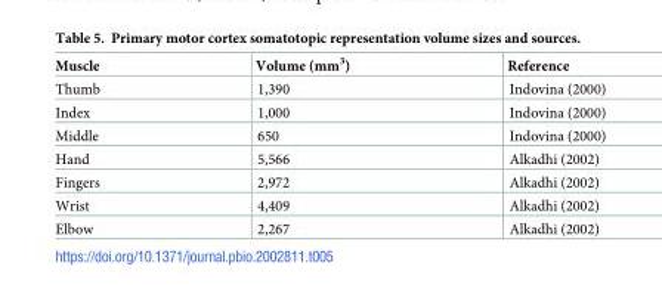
<table><thead><tr><td>Muscle</td><td>Volume (mm<sup>3</sup>)</td><td>Reference</td></tr></thead><tbody><tr><td>Thumb</td><td>1,390</td><td>Indovina (2000)</td></tr><tr><td>Index</td><td>1,000</td><td>Indovina (2000)</td></tr><tr><td>Middle</td><td>650</td><td>Indovina (2000)</td></tr><tr><td>Hand</td><td>5,566</td><td>Alkadhi (2002)</td></tr><tr><td>Fingers</td><td>2,972</td><td>Alkadhi (2002)</td></tr><tr><td>Wrist</td><td>4,409</td><td>Alkadhi (2002)</td></tr><tr><td>Elbow</td><td>2,267</td><td>Alkadhi (2002)</td></tr></tbody></table>